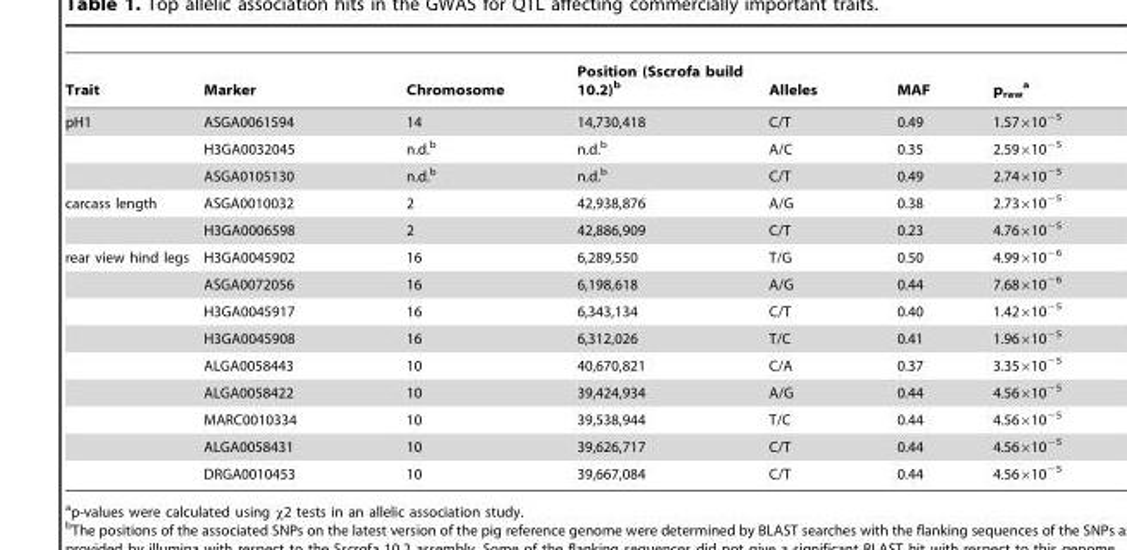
<table><thead><tr><td>Trait</td><td>Marker</td><td>Chromosome</td><td>Position (Sscrofa build 10.2)<sup>b</sup></td><td>Alleles</td><td>MAF</td><td>p<sub>raw</sub> a</td></tr></thead><tbody><tr><td rowspan="3">pH1</td><td>ASGA0061594</td><td>14</td><td>14,730,418</td><td>C/T</td><td>0.49</td><td>1.57×10<sup>−5</sup></td></tr><tr><td>H3GA0032045</td><td>n.d.<sup>b</sup></td><td>n.d.<sup>b</sup></td><td>A/C</td><td>0.35</td><td>2.59×10<sup>−5</sup></td></tr><tr><td>ASGA0105130</td><td>n.d.<sup>b</sup></td><td>n.d.<sup>b</sup></td><td>C/T</td><td>0.49</td><td>2.74×10<sup>−5</sup></td></tr><tr><td rowspan="2">carcass length</td><td>ASGA0010032</td><td>2</td><td>42,938,876</td><td>A/G</td><td>0.38</td><td>2.73×10<sup>−5</sup></td></tr><tr><td>H3GA0006598</td><td>2</td><td>42,886,909</td><td>C/T</td><td>0.23</td><td>4.76×10<sup>−5</sup></td></tr><tr><td rowspan="9">rear view hind legs</td><td>H3GA0045902</td><td>16</td><td>6,289,550</td><td>T/G</td><td>0.50</td><td>4.99×10<sup>−6</sup></td></tr><tr><td>ASGA0072056</td><td>16</td><td>6,198,618</td><td>A/G</td><td>0.44</td><td>7.68×10<sup>−6</sup></td></tr><tr><td>H3GA0045917</td><td>16</td><td>6,343,134</td><td>C/T</td><td>0.40</td><td>1.42×10<sup>−5</sup></td></tr><tr><td>H3GA0045908</td><td>16</td><td>6,312,026</td><td>T/C</td><td>0.41</td><td>1.96×10<sup>−5</sup></td></tr><tr><td>ALGA0058443</td><td>10</td><td>40,670,821</td><td>C/A</td><td>0.37</td><td>3.35×10<sup>−5</sup></td></tr><tr><td>ALGA0058422</td><td>10</td><td>39,424,934</td><td>A/G</td><td>0.44</td><td>4.56×10<sup>−5</sup></td></tr><tr><td>MARC0010334</td><td>10</td><td>39,538,944</td><td>T/C</td><td>0.44</td><td>4.56×10<sup>−5</sup></td></tr><tr><td>ALGA0058431</td><td>10</td><td>39,626,717</td><td>C/T</td><td>0.44</td><td>4.56×10<sup>−5</sup></td></tr><tr><td>DRGA0010453</td><td>10</td><td>39,667,084</td><td>C/T</td><td>0.44</td><td>4.56×10<sup>−5</sup></td></tr></tbody></table>